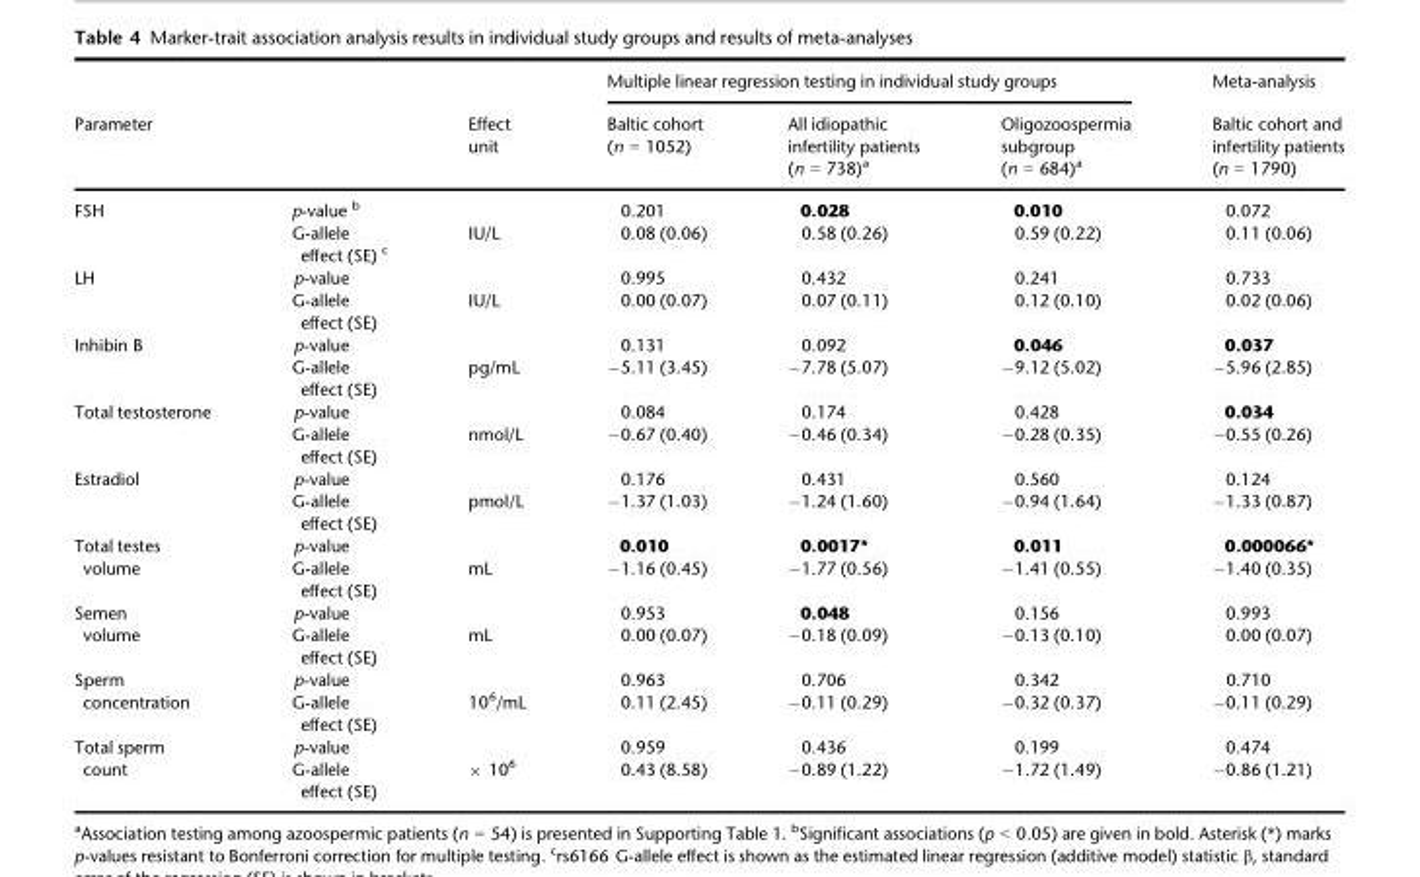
<table><thead><tr><td rowspan="2">Parameter</td><td rowspan="2"></td><td rowspan="2">Effect unit</td><td colspan="3">Multiple linear regression testing in individual study groups</td><td rowspan="2">Meta-analysis Baltic cohort and infertility patients (n = 1790)</td></tr><tr><td>Baltic cohort (n = 1052)</td><td>All idiopathic infertility patients (n = 738)<sup>a</sup></td><td>Oligozoospermia subgroup (n = 684)<sup>a</sup></td></tr></thead><tbody><tr><td rowspan="2">FSH</td><td>p-value b</td><td></td><td>0.201</td><td>0.028</td><td>0.010</td><td>0.072</td></tr><tr><td>G-allele effect (SE) c</td><td>IU/L</td><td>0.08 (0.06)</td><td>0.58 (0.26)</td><td>0.59 (0.22)</td><td>0.11 (0.06)</td></tr><tr><td rowspan="2">LH</td><td>p-value</td><td></td><td>0.995</td><td>0.432</td><td>0.241</td><td>0.733</td></tr><tr><td>G-allele effect (SE)</td><td>IU/L</td><td>0.00 (0.07)</td><td>0.07 (0.11)</td><td>0.12 (0.10)</td><td>0.02 (0.06)</td></tr><tr><td rowspan="2">Inhibin B</td><td>p-value</td><td></td><td>0.131</td><td>0.092</td><td>0.046</td><td>0.037</td></tr><tr><td>G-allele effect (SE)</td><td>pg/mL</td><td>−5.11 (3.45)</td><td>−7.78 (5.07)</td><td>−9.12 (5.02)</td><td>−5.96 (2.85)</td></tr><tr><td rowspan="2">Total testosterone</td><td>p-value</td><td></td><td>0.084</td><td>0.174</td><td>0.428</td><td>0.034</td></tr><tr><td>G-allele effect (SE)</td><td>nmol/L</td><td>−0.67 (0.40)</td><td>−0.46 (0.34)</td><td>−0.28 (0.35)</td><td>−0.55 (0.26)</td></tr><tr><td rowspan="2">Estradiol</td><td>p-value</td><td></td><td>0.176</td><td>0.431</td><td>0.560</td><td>0.124</td></tr><tr><td>G-allele effect (SE)</td><td>pmol/L</td><td>−1.37 (1.03)</td><td>−1.24 (1.60)</td><td>−0.94 (1.64)</td><td>−1.33 (0.87)</td></tr><tr><td rowspan="2">Total testes volume</td><td>p-value</td><td></td><td>0.010</td><td>0.0017*</td><td>0.011</td><td>0.000066*</td></tr><tr><td>G-allele effect (SE)</td><td>mL</td><td>−1.16 (0.45)</td><td>−1.77 (0.56)</td><td>−1.41 (0.55)</td><td>−1.40 (0.35)</td></tr><tr><td rowspan="2">Semen volume</td><td>p-value</td><td></td><td>0.953</td><td>0.048</td><td>0.156</td><td>0.993</td></tr><tr><td>G-allele effect (SE)</td><td>mL</td><td>0.00 (0.07)</td><td>−0.18 (0.09)</td><td>−0.13 (0.10)</td><td>0.00 (0.07)</td></tr><tr><td rowspan="2">Sperm concentration</td><td>p-value</td><td></td><td>0.963</td><td>0.706</td><td>0.342</td><td>0.710</td></tr><tr><td>G-allele effect (SE)</td><td>10<sup>6</sup>/mL</td><td>0.11 (2.45)</td><td>−0.11 (0.29)</td><td>−0.32 (0.37)</td><td>−0.11 (0.29)</td></tr><tr><td rowspan="2">Total sperm count</td><td>p-value</td><td></td><td>0.959</td><td>0.436</td><td>0.199</td><td>0.474</td></tr><tr><td>G-allele effect (SE)</td><td>× 10<sup>6</sup></td><td>0.43 (8.58)</td><td>−0.89 (1.22)</td><td>−1.72 (1.49)</td><td>−0.86 (1.21)</td></tr></tbody></table>